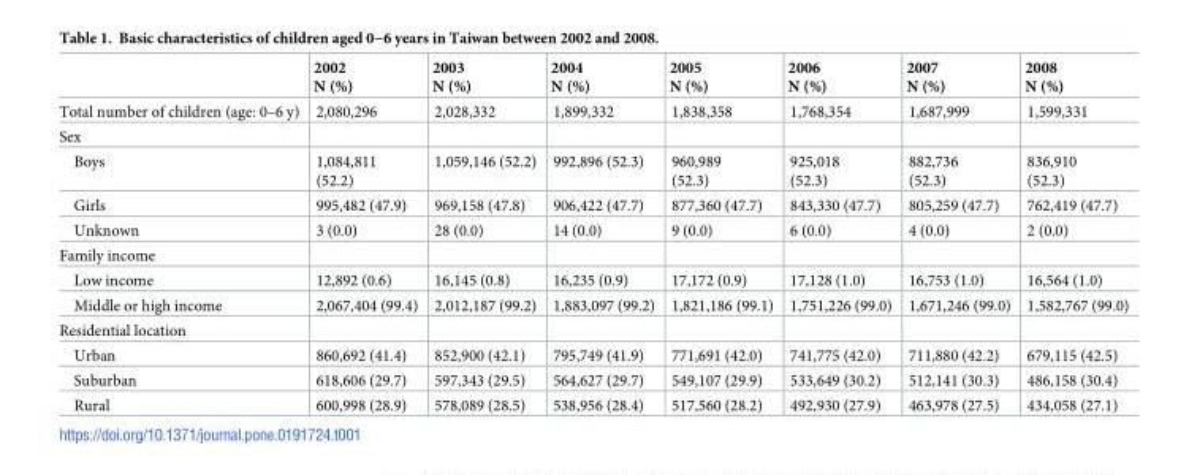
<table><thead><tr><td></td><td>2002 N (%)</td><td>2003 N (%)</td><td>2004 N (%)</td><td>2005 N (%)</td><td>2006 N (%)</td><td>2007 N (%)</td><td>2008 N (%)</td></tr></thead><tbody><tr><td>Total number of children (age: 0–6 y)</td><td>2,080,296</td><td>2,028,332</td><td>1,899,332</td><td>1,838,358</td><td>1,768,354</td><td>1,687,999</td><td>1,599,331</td></tr><tr><td colspan="8">Sex</td></tr><tr><td>Boys</td><td>1,084,811 (52.2)</td><td>1,059,146 (52.2)</td><td>992,896 (52.3)</td><td>960,989 (52.3)</td><td>925,018 (52.3)</td><td>882,736 (52.3)</td><td>836,910 (52.3)</td></tr><tr><td>Girls</td><td>995,482 (47.9)</td><td>969,158 (47.8)</td><td>906,422 (47.7)</td><td>877,360 (47.7)</td><td>843,330 (47.7)</td><td>805,259 (47.7)</td><td>762,419 (47.7)</td></tr><tr><td>Unknown</td><td>3 (0.0)</td><td>28 (0.0)</td><td>14 (0.0)</td><td>9 (0.0)</td><td>6 (0.0)</td><td>4 (0.0)</td><td>2 (0.0)</td></tr><tr><td colspan="8">Family income</td></tr><tr><td>Low income</td><td>12,892 (0.6)</td><td>16,145 (0.8)</td><td>16,235 (0.9)</td><td>17,172 (0.9)</td><td>17,128 (1.0)</td><td>16,753 (1.0)</td><td>16,564 (1.0)</td></tr><tr><td>Middle or high income</td><td>2,067,404 (99.4)</td><td>2,012,187 (99.2)</td><td>1,883,097 (99.2)</td><td>1,821,186 (99.1)</td><td>1,751,226 (99.0)</td><td>1,671,246 (99.0)</td><td>1,582,767 (99.0)</td></tr><tr><td colspan="8">Residential location</td></tr><tr><td>Urban</td><td>860,692 (41.4)</td><td>852,900 (42.1)</td><td>795,749 (41.9)</td><td>771,691 (42.0)</td><td>741,775 (42.0)</td><td>711,880 (42.2)</td><td>679,115 (42.5)</td></tr><tr><td>Suburban</td><td>618,606 (29.7)</td><td>597,343 (29.5)</td><td>564,627 (29.7)</td><td>549,107 (29.9)</td><td>533,649 (30.2)</td><td>512,141 (30.3)</td><td>486,158 (30.4)</td></tr><tr><td>Rural</td><td>600,998 (28.9)</td><td>578,089 (28.5)</td><td>538,956 (28.4)</td><td>517,560 (28.2)</td><td>492,930 (27.9)</td><td>463,978 (27.5)</td><td>434,058 (27.1)</td></tr></tbody></table>